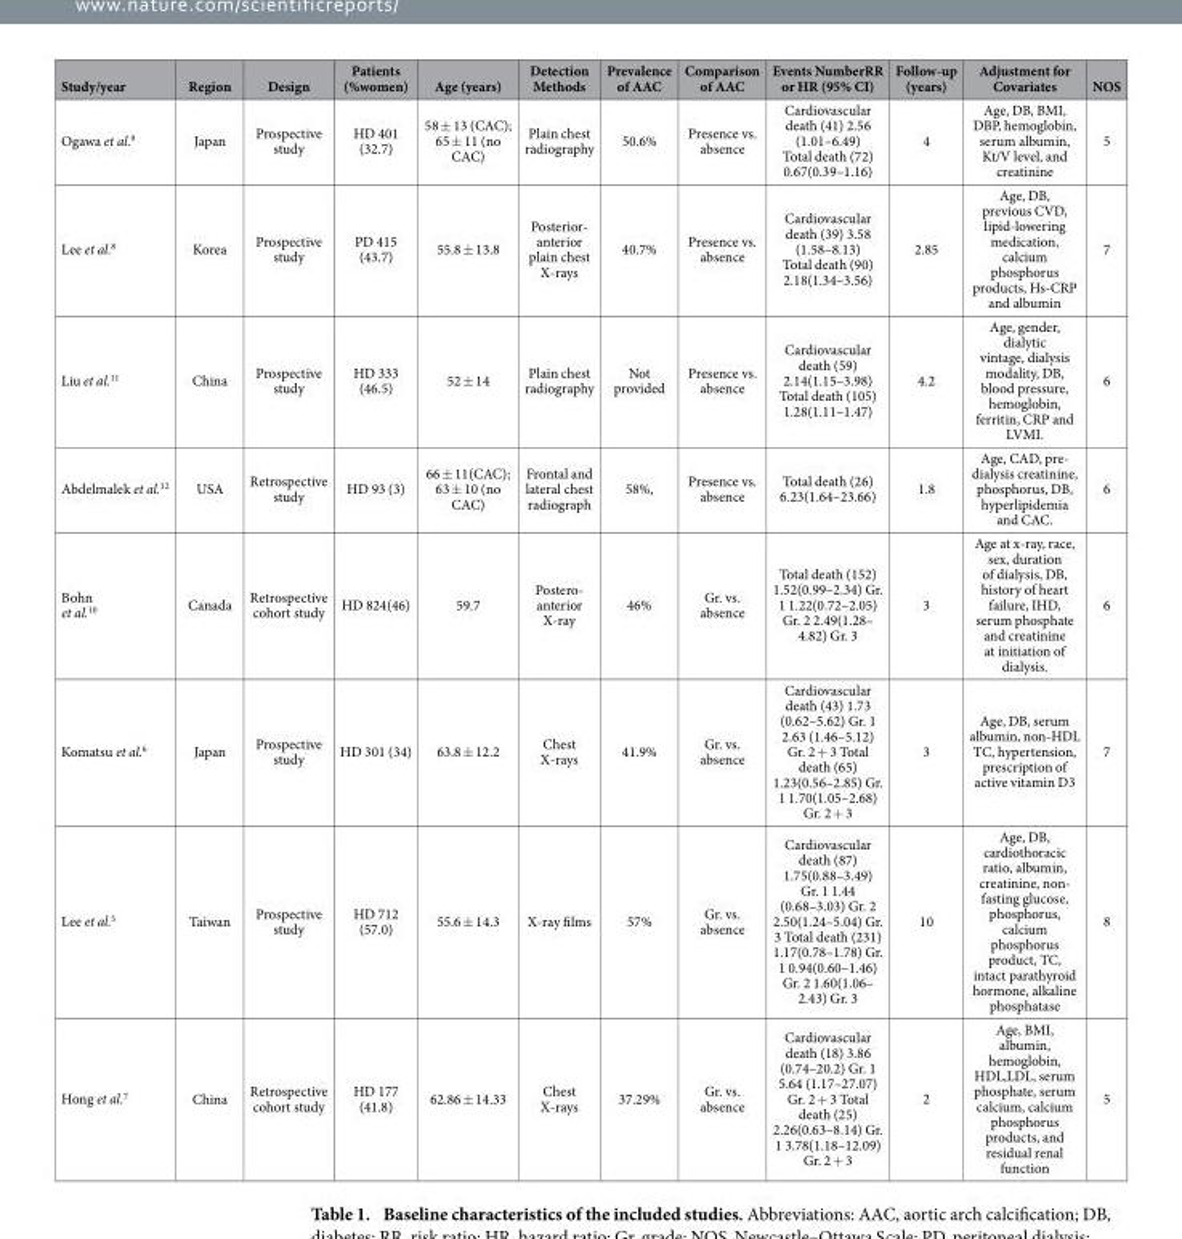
<table><thead><tr><td>Study/year</td><td>Region</td><td>Design</td><td>Patients (%women)</td><td>Age (years)</td><td>Detection Methods</td><td>Prevalence of AAC</td><td>Comparison of AAC</td><td>Events NumberRR or HR (95% CI)</td><td>Follow-up (years)</td><td>Adjustment for Covariates</td><td>NOS</td></tr></thead><tbody><tr><td>Ogawa et al.<sup>9</sup></td><td>Japan</td><td>Prospective study</td><td>HD 401 (32.7)</td><td>58 ± 13 (CAC); 65 ± 11 (no CAC)</td><td>Plain chest radiography</td><td>50.6%</td><td>Presence vs. absence</td><td>Cardiovascular death (41) 2.56 (1.01–6.49) Total death (72) 0.67(0.39–1.16)</td><td>4</td><td>Age, DB, BMI, DBP, hemoglobin, serum albumin, Kt/V level, and creatinine</td><td>5</td></tr><tr><td>Lee et al.<sup>8</sup></td><td>Korea</td><td>Prospective study</td><td>PD 415 (43.7)</td><td>55.8 ± 13.8</td><td>Posterior- anterior plain chest X-rays</td><td>40.7%</td><td>Presence vs. absence</td><td>Cardiovascular death (39) 3.58 (1.58–8.13) Total death (90) 2.18(1.34–3.56)</td><td>2.85</td><td>Age, DB, previous CVD, lipid-lowering medication, calcium phosphorus products, Hs-CRP and albumin</td><td>7</td></tr><tr><td>Liu et al.<sup>11</sup></td><td>China</td><td>Prospective study</td><td>HD 333 (46.5)</td><td>52 ± 14</td><td>Plain chest radiography</td><td>Not provided</td><td>Presence vs. absence</td><td>Cardiovascular death (59) 2.14(1.15–3.98) Total death (105) 1.28(1.11–1.47)</td><td>4.2</td><td>Age, gender, dialytic vintage, dialysis modality, DB, blood pressure, hemoglobin, ferritin, CRP and LVMI.</td><td>6</td></tr><tr><td>Abdelmalek et al.<sup>12</sup></td><td>USA</td><td>Retrospective study</td><td>HD 93 (3)</td><td>66 ± 11(CAC); 63 ± 10 (no CAC)</td><td>Frontal and lateral chest radiograph</td><td>58%,</td><td>Presence vs. absence</td><td>Total death (26) 6.23(1.64–23.66)</td><td>1.8</td><td>Age, CAD, pre- dialysis creatinine, phosphorus, DB, hyperlipidemia and CAC.</td><td>6</td></tr><tr><td>Bohn et al.<sup>10</sup></td><td>Canada</td><td>Retrospective cohort study</td><td>HD 824(46)</td><td>59.7</td><td>Postero- anterior X-ray</td><td>46%</td><td>Gr. vs. absence</td><td>Total death (152) 1.52(0.99–2.34) Gr. 1 1.22(0.72–2.05) Gr. 2 2.49(1.28– 4.82) Gr. 3</td><td>3</td><td>Age at x-ray, race, sex, duration of dialysis, DB, history of heart failure, IHD, serum phosphate and creatinine at initiation of dialysis.</td><td>6</td></tr><tr><td>Komatsu et al.<sup>6</sup></td><td>Japan</td><td>Prospective study</td><td>HD 301 (34)</td><td>63.8 ± 12.2</td><td>Chest X-rays</td><td>41.9%</td><td>Gr. vs. absence</td><td>Cardiovascular death (43) 1.73 (0.62–5.62) Gr. 1 2.63 (1.46–5.12) Gr. 2 + 3 Total death (65) 1.23(0.56–2.85) Gr. 1 1.70(1.05–2.68) Gr. 2 + 3</td><td>3</td><td>Age, DB, serum albumin, non-HDL TC, hypertension, prescription of active vitamin D3</td><td>7</td></tr><tr><td>Lee et al.<sup>5</sup></td><td>Taiwan</td><td>Prospective study</td><td>HD 712 (57.0)</td><td>55.6 ± 14.3</td><td>X-ray films</td><td>57%</td><td>Gr. vs. absence</td><td>Cardiovascular death (87) 1.75(0.88–3.49) Gr. 1 1.44 (0.68–3.03) Gr. 2 2.50(1.24–5.04) Gr. 3 Total death (231) 1.17(0.78–1.78) Gr. 1 0.94(0.60–1.46) Gr. 2 1.60(1.06– 2.43) Gr. 3</td><td>10</td><td>Age, DB, cardiothoracic ratio, albumin, creatinine, non- fasting glucose, phosphorus, calcium phosphorus product, TC, intact parathyroid hormone, alkaline phosphatase</td><td>8</td></tr><tr><td>Hong et al.<sup>7</sup></td><td>China</td><td>Retrospective cohort study</td><td>HD 177 (41.8)</td><td>62.86 ± 14.33</td><td>Chest X-rays</td><td>37.29%</td><td>Gr. vs. absence</td><td>Cardiovascular death (18) 3.86 (0.74–20.2) Gr. 1 5.64 (1.17–27.07) Gr. 2 + 3 Total death (25) 2.26(0.63–8.14) Gr. 1 3.78(1.18–12.09) Gr. 2 + 3</td><td>2</td><td>Age, BMI, albumin, hemoglobin, HDL,LDL, serum phosphate, serum calcium, calcium phosphorus products, and residual renal function</td><td>5</td></tr></tbody></table>